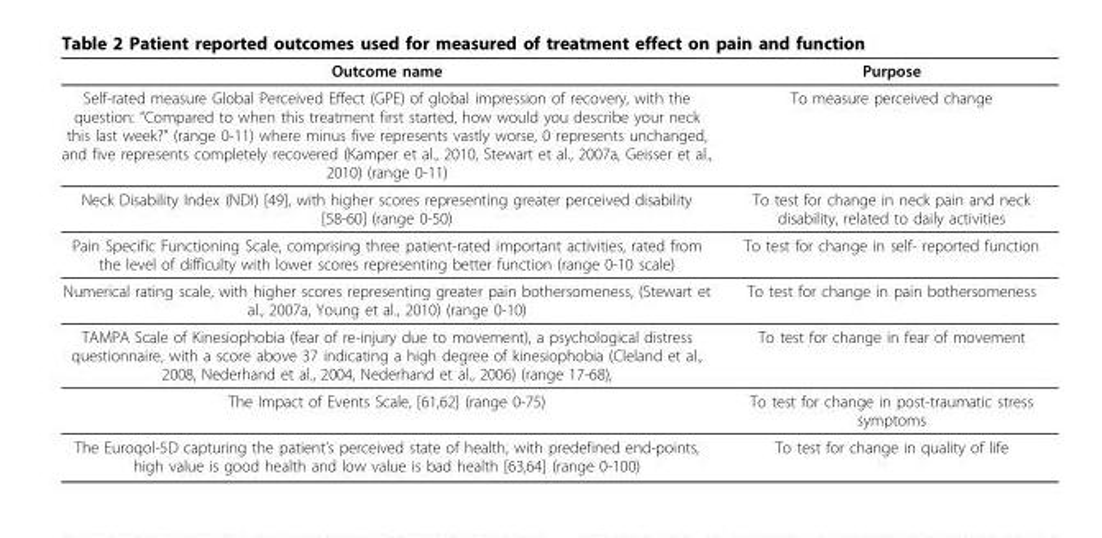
<table><thead><tr><td>Outcome name</td><td>Purpose</td></tr></thead><tbody><tr><td>Self-rated measure Global Perceived Effect (GPE) of global impression of recovery, with the question: “Compared to when this treatment first started, how would you describe your neck this last week?” (range 0-11) where minus five represents vastly worse, 0 represents unchanged, and five represents completely recovered (Kamper et al., 2010, Stewart et al., 2007a, Geisser et al., 2010) (range 0-11)</td><td>To measure perceived change</td></tr><tr><td>Neck Disability Index (NDI) [49], with higher scores representing greater perceived disability [58-60] (range 0-50)</td><td>To test for change in neck pain and neck disability, related to daily activities</td></tr><tr><td>Pain Specific Functioning Scale, comprising three patient-rated important activities, rated from the level of difficulty with lower scores representing better function (range 0-10 scale)</td><td>To test for change in self- reported function</td></tr><tr><td>Numerical rating scale, with higher scores representing greater pain bothersomeness, (Stewart et al., 2007a, Young et al., 2010) (range 0-10)</td><td>To test for change in pain bothersomeness</td></tr><tr><td>TAMPA Scale of Kinesiophobia (fear of re-injury due to movement), a psychological distress questionnaire, with a score above 37 indicating a high degree of kinesiophobia (Cleland et al., 2008, Nederhand et al., 2004, Nederhand et al., 2006) (range 17-68),</td><td>To test for change in fear of movement</td></tr><tr><td>The Impact of Events Scale, [61,62] (range 0-75)</td><td>To test for change in post-traumatic stress symptoms</td></tr><tr><td>The Euroqol-5D capturing the patient’s perceived state of health, with predefined end-points, high value is good health and low value is bad health [63,64] (range 0-100)</td><td>To test for change in quality of life</td></tr></tbody></table>